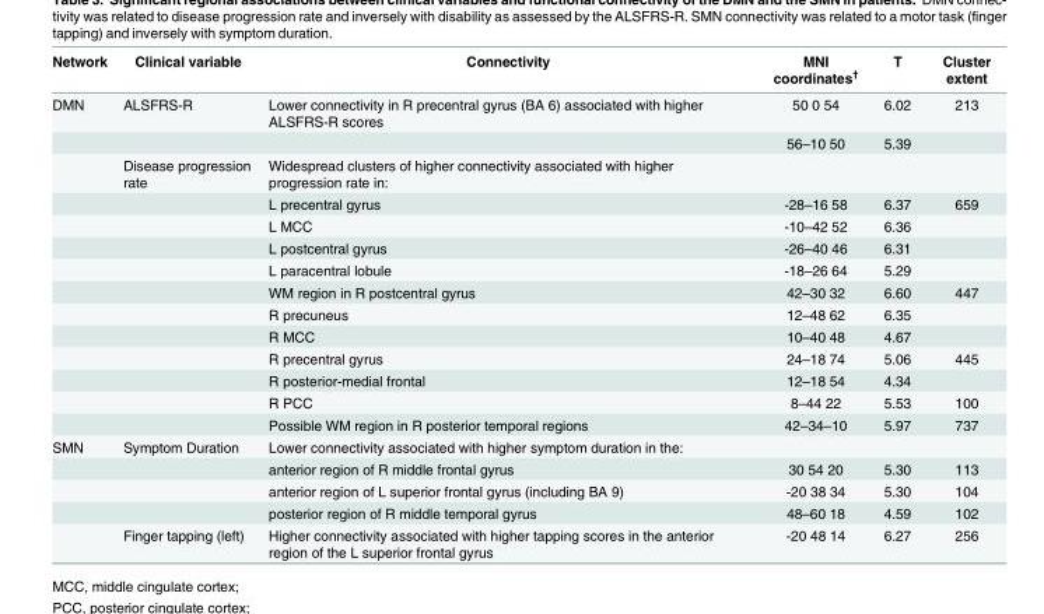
<table><thead><tr><td>Network</td><td>Clinical variable</td><td>Connectivity</td><td>MNI coordinates<sup>†</sup></td><td>T</td><td>Cluster extent</td></tr></thead><tbody><tr><td rowspan="14">DMN</td><td>ALSFRS-R</td><td>Lower connectivity in R precentral gyrus (BA 6) associated with higher ALSFRS-R scores</td><td>50 0 54</td><td>6.02</td><td>213</td></tr><tr><td></td><td></td><td>56–10 50</td><td>5.39</td><td></td></tr><tr><td>Disease progression rate</td><td>Widespread clusters of higher connectivity associated with higher progression rate in:</td><td></td><td></td><td></td></tr><tr><td></td><td>L precentral gyrus</td><td>-28–16 58</td><td>6.37</td><td>659</td></tr><tr><td></td><td>L MCC</td><td>-10–42 52</td><td>6.36</td><td></td></tr><tr><td></td><td>L postcentral gyrus</td><td>-26–40 46</td><td>6.31</td><td></td></tr><tr><td></td><td>L paracentral lobule</td><td>-18–26 64</td><td>5.29</td><td></td></tr><tr><td></td><td>WM region in R postcentral gyrus</td><td>42–30 32</td><td>6.60</td><td>447</td></tr><tr><td></td><td>R precuneus</td><td>12–48 62</td><td>6.35</td><td></td></tr><tr><td></td><td>R MCC</td><td>10–40 48</td><td>4.67</td><td></td></tr><tr><td></td><td>R precentral gyrus</td><td>24–18 74</td><td>5.06</td><td>445</td></tr><tr><td></td><td>R posterior-medial frontal</td><td>12–18 54</td><td>4.34</td><td></td></tr><tr><td></td><td>R PCC</td><td>8–44 22</td><td>5.53</td><td>100</td></tr><tr><td></td><td>Possible WM region in R posterior temporal regions</td><td>42–34–10</td><td>5.97</td><td>737</td></tr><tr><td rowspan="5">SMN</td><td>Symptom Duration</td><td>Lower connectivity associated with higher symptom duration in the:</td><td></td><td></td><td></td></tr><tr><td></td><td>anterior region of R middle frontal gyrus</td><td>30 54 20</td><td>5.30</td><td>113</td></tr><tr><td></td><td>anterior region of L superior frontal gyrus (including BA 9)</td><td>-20 38 34</td><td>5.30</td><td>104</td></tr><tr><td></td><td>posterior region of R middle temporal gyrus</td><td>48–60 18</td><td>4.59</td><td>102</td></tr><tr><td>Finger tapping (left)</td><td>Higher connectivity associated with higher tapping scores in the anterior region of the L superior frontal gyrus</td><td>-20 48 14</td><td>6.27</td><td>256</td></tr></tbody></table>